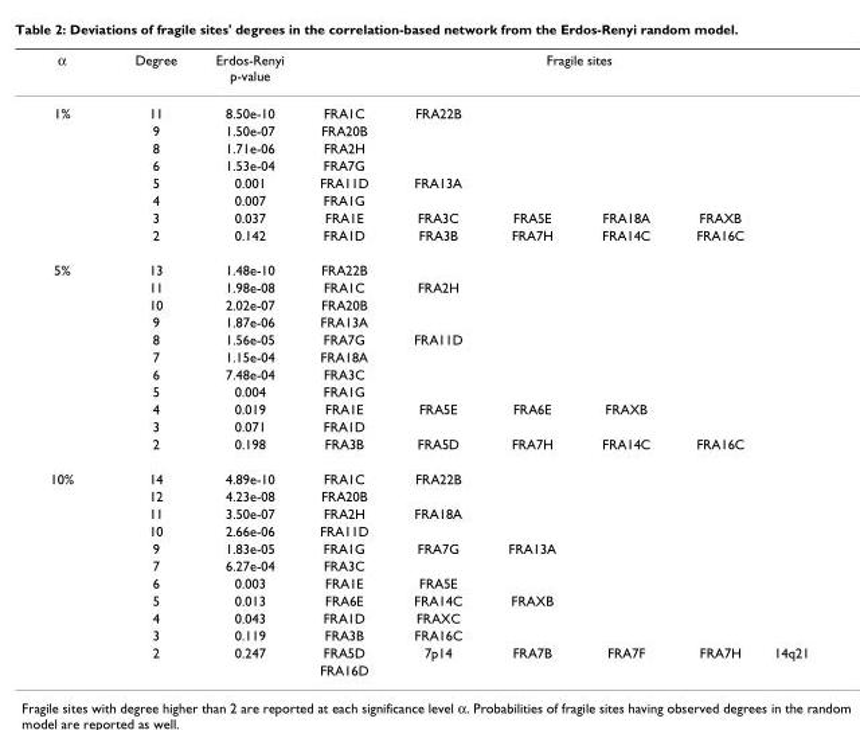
<table><thead><tr><td rowspan="2">α 1%</td><td rowspan="2">Degree 11</td><td rowspan="2">Erdos-Renyi p-value 8.50e-10</td><td colspan="6">Fragile sites</td></tr><tr><td>FRA1C</td><td>FRA22B</td><td></td><td></td><td></td><td></td></tr></thead><tbody><tr><td></td><td>9</td><td>1.50e-07</td><td>FRA20B</td><td></td><td></td><td></td><td></td><td></td></tr><tr><td></td><td>8</td><td>1.71e-06</td><td>FRA2H</td><td></td><td></td><td></td><td></td><td></td></tr><tr><td></td><td>6</td><td>1.53e-04</td><td>FRA7G</td><td></td><td></td><td></td><td></td><td></td></tr><tr><td></td><td>5</td><td>0.001</td><td>FRA11D</td><td>FRA13A</td><td></td><td></td><td></td><td></td></tr><tr><td></td><td>4</td><td>0.007</td><td>FRA1G</td><td></td><td></td><td></td><td></td><td></td></tr><tr><td></td><td>3</td><td>0.037</td><td>FRA1E</td><td>FRA3C</td><td>FRA5E</td><td>FRA18A</td><td>FRAXB</td><td></td></tr><tr><td></td><td>2</td><td>0.142</td><td>FRA1D</td><td>FRA3B</td><td>FRA7H</td><td>FRA14C</td><td>FRA16C</td><td></td></tr><tr><td rowspan="11">5%</td><td>13</td><td>1.48e-10</td><td>FRA22B</td><td></td><td></td><td></td><td></td><td></td></tr><tr><td>11</td><td>1.98e-08</td><td>FRA1C</td><td>FRA2H</td><td></td><td></td><td></td><td></td></tr><tr><td>10</td><td>2.02e-07</td><td>FRA20B</td><td></td><td></td><td></td><td></td><td></td></tr><tr><td>9</td><td>1.87e-06</td><td>FRA13A</td><td></td><td></td><td></td><td></td><td></td></tr><tr><td>8</td><td>1.56e-05</td><td>FRA7G</td><td>FRA11D</td><td></td><td></td><td></td><td></td></tr><tr><td>7</td><td>1.15e-04</td><td>FRA18A</td><td></td><td></td><td></td><td></td><td></td></tr><tr><td>6</td><td>7.48e-04</td><td>FRA3C</td><td></td><td></td><td></td><td></td><td></td></tr><tr><td>5</td><td>0.004</td><td>FRA1G</td><td></td><td></td><td></td><td></td><td></td></tr><tr><td>4</td><td>0.019</td><td>FRA1E</td><td>FRA5E</td><td>FRA6E</td><td>FRAXB</td><td></td><td></td></tr><tr><td>3</td><td>0.071</td><td>FRA1D</td><td></td><td></td><td></td><td></td><td></td></tr><tr><td>2</td><td>0.198</td><td>FRA3B</td><td>FRA5D</td><td>FRA7H</td><td>FRA14C</td><td>FRA16C</td><td></td></tr><tr><td rowspan="12">10%</td><td>14</td><td>4.89e-10</td><td>FRA1C</td><td>FRA22B</td><td></td><td></td><td></td><td></td></tr><tr><td>12</td><td>4.23e-08</td><td>FRA20B</td><td></td><td></td><td></td><td></td><td></td></tr><tr><td>11</td><td>3.50e-07</td><td>FRA2H</td><td>FRA18A</td><td></td><td></td><td></td><td></td></tr><tr><td>10</td><td>2.66e-06</td><td>FRA11D</td><td></td><td></td><td></td><td></td><td></td></tr><tr><td>9</td><td>1.83e-05</td><td>FRA1G</td><td>FRA7G</td><td>FRA13A</td><td></td><td></td><td></td></tr><tr><td>7</td><td>6.27e-04</td><td>FRA3C</td><td></td><td></td><td></td><td></td><td></td></tr><tr><td>6</td><td>0.003</td><td>FRA1E</td><td>FRA5E</td><td></td><td></td><td></td><td></td></tr><tr><td>5</td><td>0.013</td><td>FRA6E</td><td>FRA14C</td><td>FRAXB</td><td></td><td></td><td></td></tr><tr><td>4</td><td>0.043</td><td>FRA1D</td><td>FRAXC</td><td></td><td></td><td></td><td></td></tr><tr><td>3</td><td>0.119</td><td>FRA3B</td><td>FRA16C</td><td></td><td></td><td></td><td></td></tr><tr><td>2</td><td>0.247</td><td>FRA5D</td><td>7p14</td><td>FRA7B</td><td>FRA7F</td><td>FRA7H</td><td>14q21</td></tr><tr><td></td><td></td><td>FRA16D</td><td></td><td></td><td></td><td></td><td></td></tr></tbody></table>